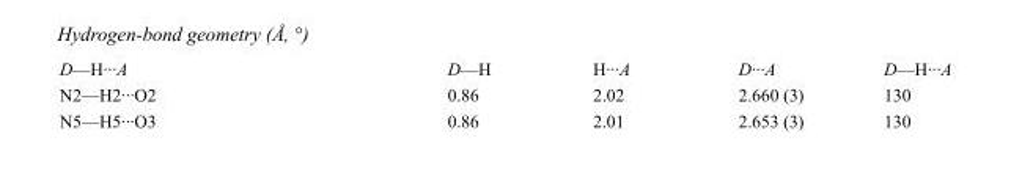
<table><tbody><tr><td>D—H···A</td><td>D—H</td><td>H···A</td><td>D···A</td><td>D—H···A</td></tr><tr><td>N2—H2···O2</td><td>0.86</td><td>2.02</td><td>2.660 (3)</td><td>130</td></tr><tr><td>N5—H5···O3</td><td>0.86</td><td>2.01</td><td>2.653 (3)</td><td>130</td></tr></tbody></table>